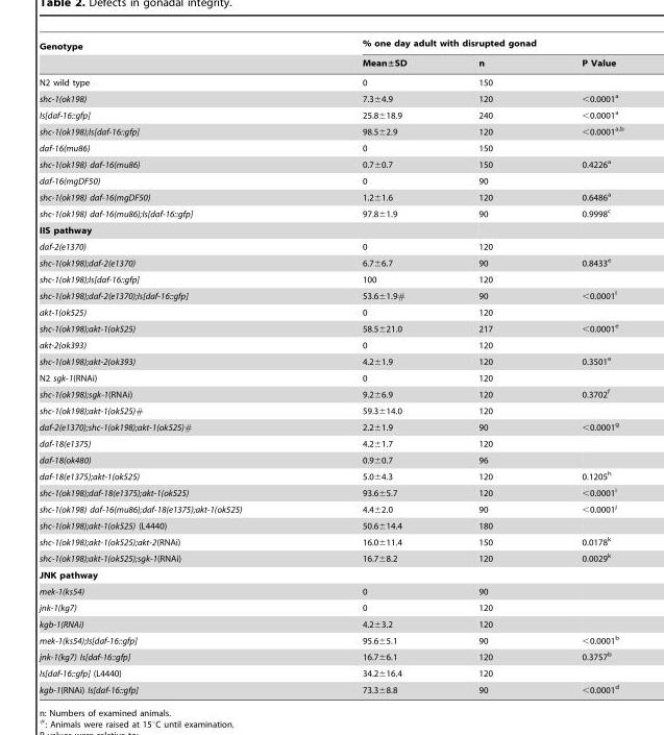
<table><thead><tr><td rowspan="2">Genotype</td><td colspan="3">% one day adult with disrupted gonad</td></tr><tr><td>Mean±SD</td><td>n</td><td>P Value</td></tr></thead><tbody><tr><td>N2 wild type</td><td>0</td><td>150</td><td></td></tr><tr><td>shc-1(ok198)</td><td>7.3±4.9</td><td>120</td><td>&lt;0.0001<sup>a</sup></td></tr><tr><td>Is[daf-16::gfp]</td><td>25.8±18.9</td><td>240</td><td>&lt;0.0001<sup>a</sup></td></tr><tr><td>shc-1(ok198);Is[daf-16::gfp]</td><td>98.5±2.9</td><td>120</td><td>&lt;0.0001<sup>a,</sup>b</td></tr><tr><td>daf-16(mu86)</td><td>0</td><td>150</td><td></td></tr><tr><td>shc-1(ok198) daf-16(mu86)</td><td>0.7±0.7</td><td>150</td><td>0.4226<sup>a</sup></td></tr><tr><td>daf-16(mgDF50)</td><td>0</td><td>90</td><td></td></tr><tr><td>shc-1(ok198) daf-16(mgDF50)</td><td>1.2±1.6</td><td>120</td><td>0.6486<sup>a</sup></td></tr><tr><td>shc-1(ok198) daf-16(mu86);Is[daf-16::gfp]</td><td>97.8±1.9</td><td>90</td><td>0.9998<sup>c</sup></td></tr><tr><td colspan="4">IIS pathway</td></tr><tr><td>daf-2(e1370)</td><td>0</td><td>120</td><td></td></tr><tr><td>shc-1(ok198);daf-2(e1370)</td><td>6.7±6.7</td><td>90</td><td>0.8433<sup>e</sup></td></tr><tr><td>shc-1(ok198);Is[daf-16::gfp]</td><td>100</td><td>120</td><td></td></tr><tr><td>shc-1(ok198);daf-2(e1370);Is[daf-16::gfp]</td><td>53.6±1.9#</td><td>90</td><td>&lt;0.0001<sup>l</sup></td></tr><tr><td>akt-1(ok525)</td><td>0</td><td>120</td><td></td></tr><tr><td>shc-1(ok198);akt-1(ok525)</td><td>58.5±21.0</td><td>217</td><td>&lt;0.0001<sup>e</sup></td></tr><tr><td>akt-2(ok393)</td><td>0</td><td>120</td><td></td></tr><tr><td>shc-1(ok198);akt-2(ok393)</td><td>4.2±1.9</td><td>120</td><td>0.3501<sup>e</sup></td></tr><tr><td>N2 sgk-1(RNAi)</td><td>0</td><td>120</td><td></td></tr><tr><td>shc-1(ok198);sgk-1(RNAi)</td><td>9.2±6.9</td><td>120</td><td>0.3702<sup>f</sup></td></tr><tr><td>shc-1(ok198);akt-1(ok525)#</td><td>59.3±14.0</td><td>120</td><td></td></tr><tr><td>daf-2(e1370);shc-1(ok198);akt-1(ok525)#</td><td>2.2±1.9</td><td>90</td><td>&lt;0.0001<sup>g</sup></td></tr><tr><td>daf-18(e1375)</td><td>4.2±1.7</td><td>120</td><td></td></tr><tr><td>daf-18(ok480)</td><td>0.9±0.7</td><td>96</td><td></td></tr><tr><td>daf-18(e1375);akt-1(ok525)</td><td>5.0±4.3</td><td>120</td><td>0.1205<sup>h</sup></td></tr><tr><td>shc-1(ok198);daf-18(e1375);akt-1(ok525)</td><td>93.6±5.7</td><td>120</td><td>&lt;0.0001<sup>i</sup></td></tr><tr><td>shc-1(ok198) daf-16(mu86);daf-18(e1375);akt-1(ok525)</td><td>4.4±2.0</td><td>90</td><td>&lt;0.0001<sup>j</sup></td></tr><tr><td>shc-1(ok198);akt-1(ok525) (L4440)</td><td>50.6±14.4</td><td>180</td><td></td></tr><tr><td>shc-1(ok198);akt-1(ok525);akt-2(RNAi)</td><td>16.0±11.4</td><td>150</td><td>0.0178<sup>k</sup></td></tr><tr><td>shc-1(ok198);akt-1(ok525);sgk-1(RNAi)</td><td>16.7±8.2</td><td>120</td><td>0.0029<sup>k</sup></td></tr><tr><td colspan="4">JNK pathway</td></tr><tr><td>mek-1(ks54)</td><td>0</td><td>90</td><td></td></tr><tr><td>jnk-1(kg7)</td><td>0</td><td>120</td><td></td></tr><tr><td>kgb-1(RNAi)</td><td>4.2±3.2</td><td>120</td><td></td></tr><tr><td>mek-1(ks54);Is[daf-16::gfp]</td><td>95.6±5.1</td><td>90</td><td>&lt;0.0001<sup>b</sup></td></tr><tr><td>jnk-1(kg7) Is[daf-16::gfp]</td><td>16.7±6.1</td><td>120</td><td>0.3757<sup>b</sup></td></tr><tr><td>Is[daf-16::gfp] (L4440)</td><td>34.2±16.4</td><td>120</td><td></td></tr><tr><td>kgb-1(RNAi) Is[daf-16::gfp]</td><td>73.3±8.8</td><td>90</td><td>&lt;0.0001<sup>d</sup></td></tr></tbody></table>